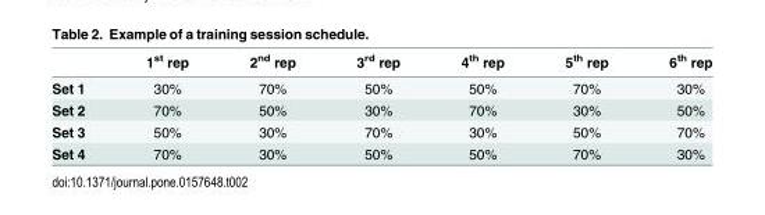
<table><thead><tr><td></td><td>1<sup>st</sup> rep</td><td>2<sup>nd</sup> rep</td><td>3<sup>rd</sup> rep</td><td>4<sup>th</sup> rep</td><td>5<sup>th</sup> rep</td><td>6<sup>th</sup> rep</td></tr></thead><tbody><tr><td>Set 1</td><td>30%</td><td>70%</td><td>50%</td><td>50%</td><td>70%</td><td>30%</td></tr><tr><td>Set 2</td><td>70%</td><td>50%</td><td>30%</td><td>70%</td><td>30%</td><td>50%</td></tr><tr><td>Set 3</td><td>50%</td><td>30%</td><td>70%</td><td>30%</td><td>50%</td><td>70%</td></tr><tr><td>Set 4</td><td>70%</td><td>30%</td><td>50%</td><td>50%</td><td>70%</td><td>30%</td></tr></tbody></table>